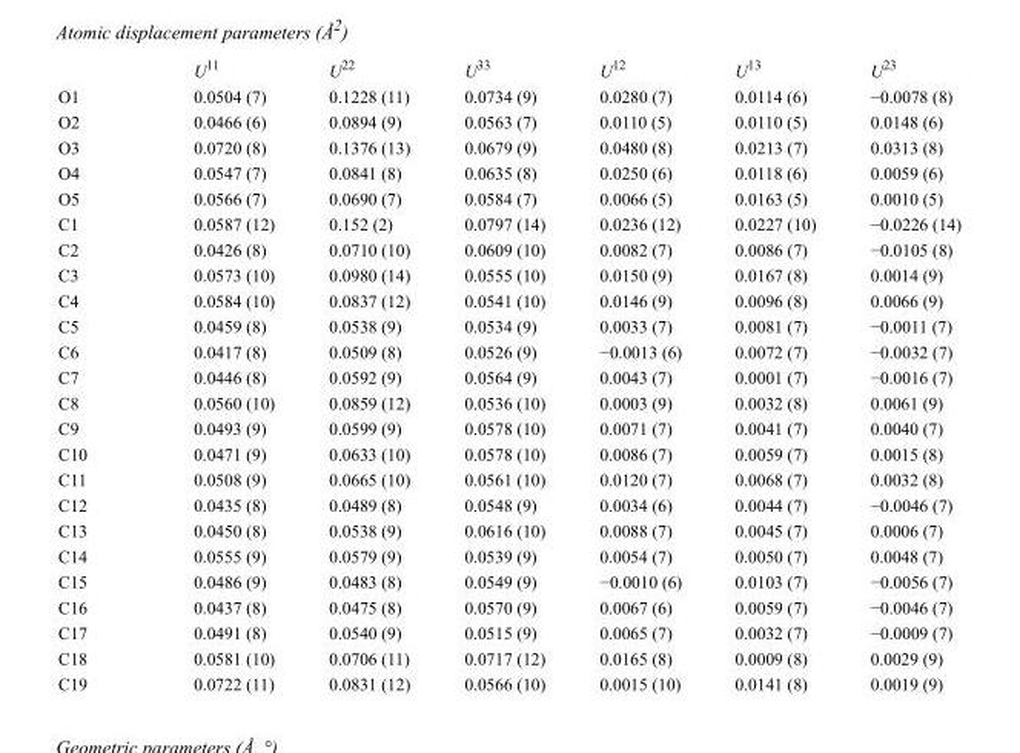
<table><thead><tr><td></td><td>U<sup>11</sup></td><td>U<sup>22</sup></td><td>U<sup>33</sup></td><td>U<sup>12</sup></td><td>U<sup>13</sup></td><td>U<sup>23</sup></td></tr></thead><tbody><tr><td>O1</td><td>0.0504 (7)</td><td>0.1228 (11)</td><td>0.0734 (9)</td><td>0.0280 (7)</td><td>0.0114 (6)</td><td>−0.0078 (8)</td></tr><tr><td>O2</td><td>0.0466 (6)</td><td>0.0894 (9)</td><td>0.0563 (7)</td><td>0.0110 (5)</td><td>0.0110 (5)</td><td>0.0148 (6)</td></tr><tr><td>O3</td><td>0.0720 (8)</td><td>0.1376 (13)</td><td>0.0679 (9)</td><td>0.0480 (8)</td><td>0.0213 (7)</td><td>0.0313 (8)</td></tr><tr><td>O4</td><td>0.0547 (7)</td><td>0.0841 (8)</td><td>0.0635 (8)</td><td>0.0250 (6)</td><td>0.0118 (6)</td><td>0.0059 (6)</td></tr><tr><td>O5</td><td>0.0566 (7)</td><td>0.0690 (7)</td><td>0.0584 (7)</td><td>0.0066 (5)</td><td>0.0163 (5)</td><td>0.0010 (5)</td></tr><tr><td>C1</td><td>0.0587 (12)</td><td>0.152 (2)</td><td>0.0797 (14)</td><td>0.0236 (12)</td><td>0.0227 (10)</td><td>−0.0226 (14)</td></tr><tr><td>C2</td><td>0.0426 (8)</td><td>0.0710 (10)</td><td>0.0609 (10)</td><td>0.0082 (7)</td><td>0.0086 (7)</td><td>−0.0105 (8)</td></tr><tr><td>C3</td><td>0.0573 (10)</td><td>0.0980 (14)</td><td>0.0555 (10)</td><td>0.0150 (9)</td><td>0.0167 (8)</td><td>0.0014 (9)</td></tr><tr><td>C4</td><td>0.0584 (10)</td><td>0.0837 (12)</td><td>0.0541 (10)</td><td>0.0146 (9)</td><td>0.0096 (8)</td><td>0.0066 (9)</td></tr><tr><td>C5</td><td>0.0459 (8)</td><td>0.0538 (9)</td><td>0.0534 (9)</td><td>0.0033 (7)</td><td>0.0081 (7)</td><td>−0.0011 (7)</td></tr><tr><td>C6</td><td>0.0417 (8)</td><td>0.0509 (8)</td><td>0.0526 (9)</td><td>−0.0013 (6)</td><td>0.0072 (7)</td><td>−0.0032 (7)</td></tr><tr><td>C7</td><td>0.0446 (8)</td><td>0.0592 (9)</td><td>0.0564 (9)</td><td>0.0043 (7)</td><td>0.0001 (7)</td><td>−0.0016 (7)</td></tr><tr><td>C8</td><td>0.0560 (10)</td><td>0.0859 (12)</td><td>0.0536 (10)</td><td>0.0003 (9)</td><td>0.0032 (8)</td><td>0.0061 (9)</td></tr><tr><td>C9</td><td>0.0493 (9)</td><td>0.0599 (9)</td><td>0.0578 (10)</td><td>0.0071 (7)</td><td>0.0041 (7)</td><td>0.0040 (7)</td></tr><tr><td>C10</td><td>0.0471 (9)</td><td>0.0633 (10)</td><td>0.0578 (10)</td><td>0.0086 (7)</td><td>0.0059 (7)</td><td>0.0015 (8)</td></tr><tr><td>C11</td><td>0.0508 (9)</td><td>0.0665 (10)</td><td>0.0561 (10)</td><td>0.0120 (7)</td><td>0.0068 (7)</td><td>0.0032 (8)</td></tr><tr><td>C12</td><td>0.0435 (8)</td><td>0.0489 (8)</td><td>0.0548 (9)</td><td>0.0034 (6)</td><td>0.0044 (7)</td><td>−0.0046 (7)</td></tr><tr><td>C13</td><td>0.0450 (8)</td><td>0.0538 (9)</td><td>0.0616 (10)</td><td>0.0088 (7)</td><td>0.0045 (7)</td><td>0.0006 (7)</td></tr><tr><td>C14</td><td>0.0555 (9)</td><td>0.0579 (9)</td><td>0.0539 (9)</td><td>0.0054 (7)</td><td>0.0050 (7)</td><td>0.0048 (7)</td></tr><tr><td>C15</td><td>0.0486 (9)</td><td>0.0483 (8)</td><td>0.0549 (9)</td><td>−0.0010 (6)</td><td>0.0103 (7)</td><td>−0.0056 (7)</td></tr><tr><td>C16</td><td>0.0437 (8)</td><td>0.0475 (8)</td><td>0.0570 (9)</td><td>0.0067 (6)</td><td>0.0059 (7)</td><td>−0.0046 (7)</td></tr><tr><td>C17</td><td>0.0491 (8)</td><td>0.0540 (9)</td><td>0.0515 (9)</td><td>0.0065 (7)</td><td>0.0032 (7)</td><td>−0.0009 (7)</td></tr><tr><td>C18</td><td>0.0581 (10)</td><td>0.0706 (11)</td><td>0.0717 (12)</td><td>0.0165 (8)</td><td>0.0009 (8)</td><td>0.0029 (9)</td></tr><tr><td>C19</td><td>0.0722 (11)</td><td>0.0831 (12)</td><td>0.0566 (10)</td><td>0.0015 (10)</td><td>0.0141 (8)</td><td>0.0019 (9)</td></tr></tbody></table>